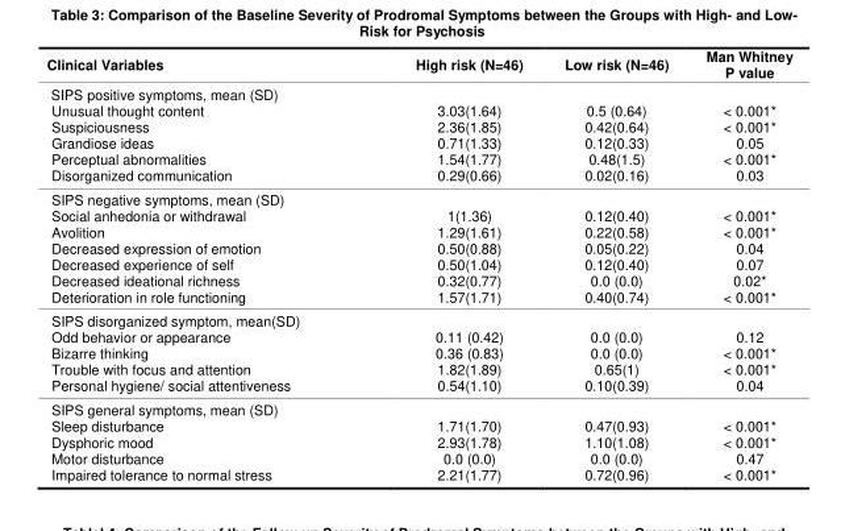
<table><thead><tr><td>Clinical Variables</td><td>High risk (N=46)</td><td>Low risk (N=46)</td><td>Man Whitney P value</td></tr></thead><tbody><tr><td>SIPS positive symptoms, mean (SD) Unusual thought content Suspiciousness Grandiose ideas Perceptual abnormalities Disorganized communication</td><td>3.03(1.64) 2.36(1.85) 0.71(1.33) 1.54(1.77) 0.29(0.66)</td><td>0.5 (0.64) 0.42(0.64) 0.12(0.33) 0.48(1.5) 0.02(0.16)</td><td>&lt; 0.001* &lt; 0.001* 0.05 &lt; 0.001* 0.03</td></tr><tr><td>SIPS negative symptoms, mean (SD) Social anhedonia or withdrawal Avolition Decreased expression of emotion Decreased experience of self Decreased ideational richness Deterioration in role functioning</td><td>1(1.36) 1.29(1.61) 0.50(0.88) 0.50(1.04) 0.32(0.77) 1.57(1.71)</td><td>0.12(0.40) 0.22(0.58) 0.05(0.22) 0.12(0.40) 0.0 (0.0) 0.40(0.74)</td><td>&lt; 0.001* &lt; 0.001* 0.04 0.07 0.02* &lt; 0.001*</td></tr><tr><td>SIPS disorganized symptom, mean(SD) Odd behavior or appearance Bizarre thinking Trouble with focus and attention Personal hygiene/ social attentiveness</td><td>0.11 (0.42) 0.36 (0.83) 1.82(1.89) 0.54(1.10)</td><td>0.0 (0.0) 0.0 (0.0) 0.65(1) 0.10(0.39)</td><td>0.12 &lt; 0.001* &lt; 0.001* 0.04</td></tr><tr><td>SIPS general symptoms, mean (SD) Sleep disturbance Dysphoric mood Motor disturbance Impaired tolerance to normal stress</td><td>1.71(1.70) 2.93(1.78) 0.0 (0.0) 2.21(1.77)</td><td>0.47(0.93) 1.10(1.08) 0.0 (0.0) 0.72(0.96)</td><td>&lt; 0.001* &lt; 0.001* 0.47 &lt; 0.001*</td></tr></tbody></table>